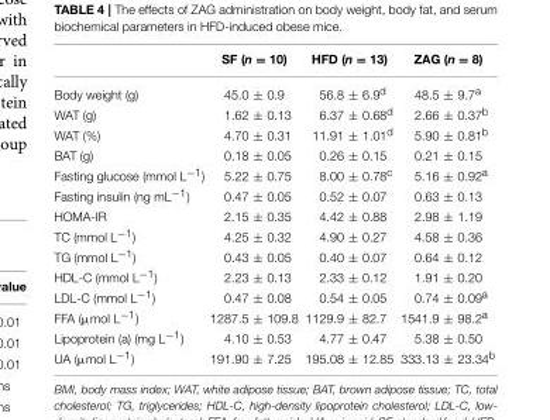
<table><thead><tr><td></td><td>SF (n = 10)</td><td>HFD (n = 13)</td><td>ZAG (n = 8)</td></tr></thead><tbody><tr><td>Body weight (g)</td><td>45.0 ± 0.9</td><td>56.8 ± 6.9<sup>d</sup></td><td>48.5 ± 9.7<sup>a</sup></td></tr><tr><td>WAT (g)</td><td>1.62 ± 0.13</td><td>6.37 ± 0.68<sup>d</sup></td><td>2.66 ± 0.37<sup>b</sup></td></tr><tr><td>WAT (%)</td><td>4.70 ± 0.31</td><td>11.91 ± 1.01<sup>d</sup></td><td>5.90 ± 0.81<sup>b</sup></td></tr><tr><td>BAT (g)</td><td>0.18 ± 0.05</td><td>0.26 ± 0.15</td><td>0.21 ± 0.15</td></tr><tr><td>Fasting glucose (mmol L<sup>−1</sup>)</td><td>5.22 ± 0.75</td><td>8.00 ± 0.78<sup>c</sup></td><td>5.16 ± 0.92<sup>a</sup></td></tr><tr><td>Fasting insulin (ng mL<sup>−1</sup>)</td><td>0.47 ± 0.05</td><td>0.52 ± 0.07</td><td>0.63 ± 0.13</td></tr><tr><td>HOMA-IR</td><td>2.15 ± 0.35</td><td>4.42 ± 0.88</td><td>2.98 ± 1.19</td></tr><tr><td>TC (mmol L<sup>−1</sup>)</td><td>4.25 ± 0.32</td><td>4.90 ± 0.27</td><td>4.58 ± 0.36</td></tr><tr><td>TG (mmol L<sup>−1</sup>)</td><td>0.43 ± 0.05</td><td>0.40 ± 0.07</td><td>0.64 ± 0.12</td></tr><tr><td>HDL-C (mmol L<sup>−1</sup>)</td><td>2.23 ± 0.13</td><td>2.33 ± 0.12</td><td>1.91 ± 0.20</td></tr><tr><td>LDL-C (mmol L<sup>−1</sup>)</td><td>0.47 ± 0.08</td><td>0.54 ± 0.05</td><td>0.74 ± 0.09<sup>a</sup></td></tr><tr><td>FFA (µmol L<sup>−1</sup>)</td><td>1287.5 ± 109.8</td><td>1129.9 ± 82.7</td><td>1541.9 ± 98.2<sup>a</sup></td></tr><tr><td>Lipoprotein (a) (mg L<sup>−1</sup>)</td><td>4.10 ± 0.53</td><td>4.77 ± 0.47</td><td>5.38 ± 0.50</td></tr><tr><td>UA (µmol L<sup>−1</sup>)</td><td>191.90 ± 7.25</td><td>195.08 ± 12.85</td><td>333.13 ± 23.34<sup>b</sup></td></tr></tbody></table>